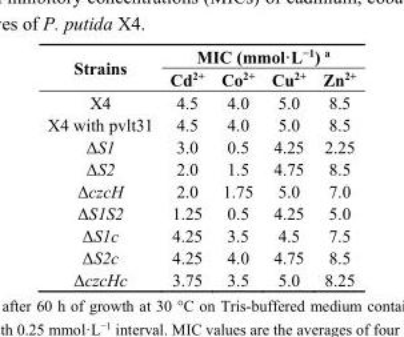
<table><thead><tr><td rowspan="2">Strains</td><td colspan="4">MIC (mmol·L<sup>−1</sup>) <sup>a</sup></td></tr><tr><td>Cd<sup>2+</sup></td><td>Co<sup>2+</sup></td><td>Cu<sup>2+</sup></td><td>Zn<sup>2+</sup></td></tr></thead><tbody><tr><td>X4</td><td>4.5</td><td>4.0</td><td>5.0</td><td>8.5</td></tr><tr><td>X4 with pvlt31</td><td>4.5</td><td>4.0</td><td>5.0</td><td>8.5</td></tr><tr><td>ΔS1</td><td>3.0</td><td>0.5</td><td>4.25</td><td>2.25</td></tr><tr><td>ΔS2</td><td>2.0</td><td>1.5</td><td>4.75</td><td>8.5</td></tr><tr><td>ΔczcH</td><td>2.0</td><td>1.75</td><td>5.0</td><td>7.0</td></tr><tr><td>ΔS1S2</td><td>1.25</td><td>0.5</td><td>4.25</td><td>5.0</td></tr><tr><td>ΔS1c</td><td>4.25</td><td>3.5</td><td>4.5</td><td>7.5</td></tr><tr><td>ΔS2c</td><td>4.25</td><td>4.0</td><td>4.75</td><td>8.5</td></tr><tr><td>ΔczcHc</td><td>3.75</td><td>3.5</td><td>5.0</td><td>8.25</td></tr></tbody></table>